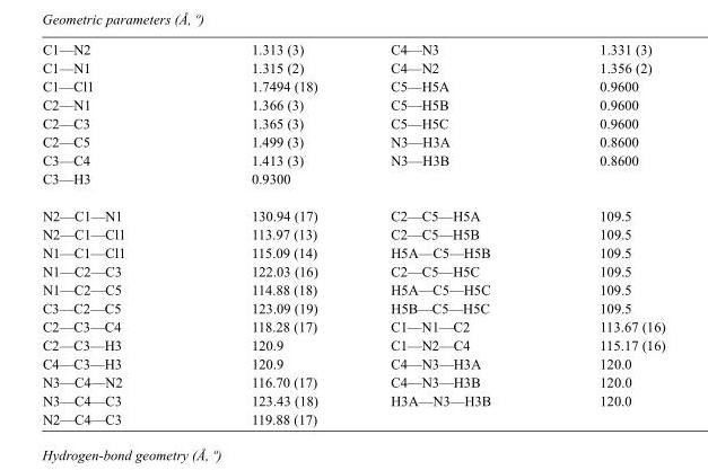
<table><tbody><tr><td>C1—N2</td><td>1.313 (3)</td><td>C4—N3</td><td>1.331 (3)</td></tr><tr><td>C1—N1</td><td>1.315 (2)</td><td>C4—N2</td><td>1.356 (2)</td></tr><tr><td>C1—Cl1</td><td>1.7494 (18)</td><td>C5—H5A</td><td>0.9600</td></tr><tr><td>C2—N1</td><td>1.366 (3)</td><td>C5—H5B</td><td>0.9600</td></tr><tr><td>C2—C3</td><td>1.365 (3)</td><td>C5—H5C</td><td>0.9600</td></tr><tr><td>C2—C5</td><td>1.499 (3)</td><td>N3—H3A</td><td>0.8600</td></tr><tr><td>C3—C4</td><td>1.413 (3)</td><td>N3—H3B</td><td>0.8600</td></tr><tr><td>C3—H3</td><td>0.9300</td><td></td><td></td></tr><tr><td>N2—C1—N1</td><td>130.94 (17)</td><td>C2—C5—H5A</td><td>109.5</td></tr><tr><td>N2—C1—Cl1</td><td>113.97 (13)</td><td>C2—C5—H5B</td><td>109.5</td></tr><tr><td>N1—C1—Cl1</td><td>115.09 (14)</td><td>H5A—C5—H5B</td><td>109.5</td></tr><tr><td>N1—C2—C3</td><td>122.03 (16)</td><td>C2—C5—H5C</td><td>109.5</td></tr><tr><td>N1—C2—C5</td><td>114.88 (18)</td><td>H5A—C5—H5C</td><td>109.5</td></tr><tr><td>C3—C2—C5</td><td>123.09 (19)</td><td>H5B—C5—H5C</td><td>109.5</td></tr><tr><td>C2—C3—C4</td><td>118.28 (17)</td><td>C1—N1—C2</td><td>113.67 (16)</td></tr><tr><td>C2—C3—H3</td><td>120.9</td><td>C1—N2—C4</td><td>115.17 (16)</td></tr><tr><td>C4—C3—H3</td><td>120.9</td><td>C4—N3—H3A</td><td>120.0</td></tr><tr><td>N3—C4—N2</td><td>116.70 (17)</td><td>C4—N3—H3B</td><td>120.0</td></tr><tr><td>N3—C4—C3</td><td>123.43 (18)</td><td>H3A—N3—H3B</td><td>120.0</td></tr><tr><td>N2—C4—C3</td><td>119.88 (17)</td><td></td><td></td></tr></tbody></table>